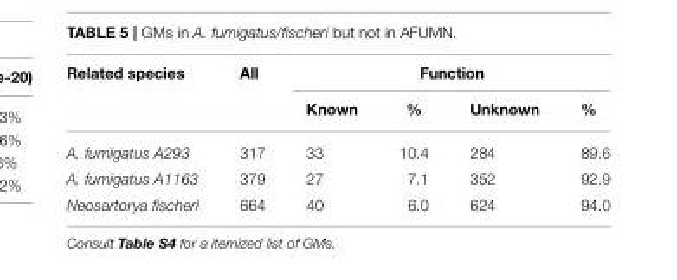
<table><thead><tr><td rowspan="2">Related species</td><td rowspan="2">All</td><td colspan="4">Function</td></tr><tr><td>Known</td><td>%</td><td>Unknown</td><td>%</td></tr></thead><tbody><tr><td>A. fumigatus A293</td><td>317</td><td>33</td><td>10.4</td><td>284</td><td>89.6</td></tr><tr><td>A. fumigatus A1163</td><td>379</td><td>27</td><td>7.1</td><td>352</td><td>92.9</td></tr><tr><td>Neosartorya fischeri</td><td>664</td><td>40</td><td>6.0</td><td>624</td><td>94.0</td></tr></tbody></table>